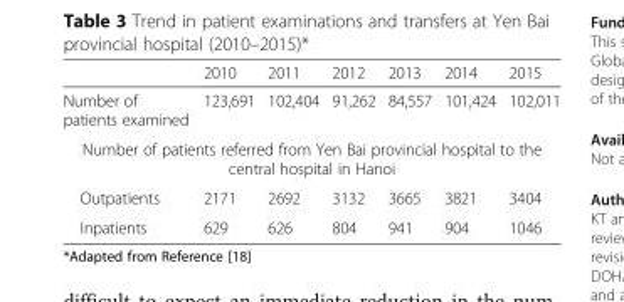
<table><thead><tr><td></td><td>2010</td><td>2011</td><td>2012</td><td>2013</td><td>2014</td><td>2015</td></tr></thead><tbody><tr><td>Number of patients examined</td><td>123,691</td><td>102,404</td><td>91,262</td><td>84,557</td><td>101,424</td><td>102,011</td></tr><tr><td colspan="7">Number of patients referred from Yen Bai provincial hospital to the central hospital in Hanoi</td></tr><tr><td>Outpatients</td><td>2171</td><td>2692</td><td>3132</td><td>3665</td><td>3821</td><td>3404</td></tr><tr><td>Inpatients</td><td>629</td><td>626</td><td>804</td><td>941</td><td>904</td><td>1046</td></tr></tbody></table>